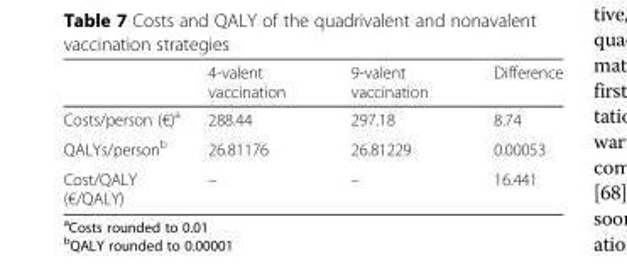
<table><thead><tr><td></td><td>4-valent vaccination</td><td>9-valent vaccination</td><td>Difference</td></tr></thead><tbody><tr><td>Costs/person (€)<sup>a</sup></td><td>288.44</td><td>297.18</td><td>8.74</td></tr><tr><td>QALYs/person<sup>b</sup></td><td>26.81176</td><td>26.81229</td><td>0.00053</td></tr><tr><td>Cost/QALY (€/QALY)</td><td>–</td><td>–</td><td>16.441</td></tr></tbody></table>